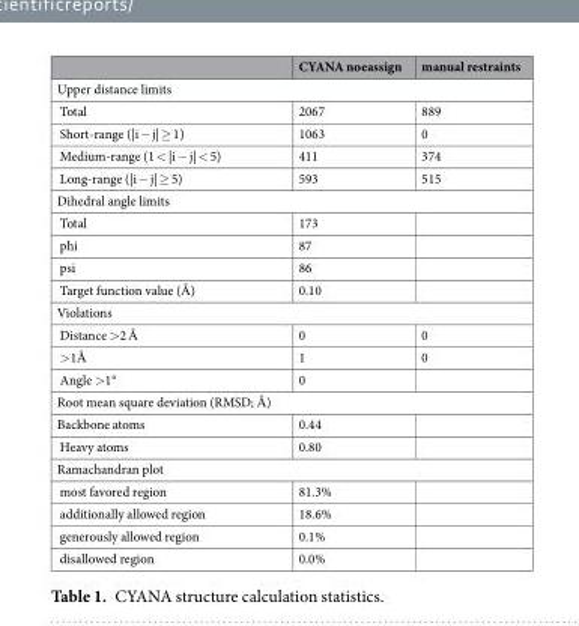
<table><thead><tr><td></td><td>CYANA noeassign</td><td>manual restraints</td></tr></thead><tbody><tr><td colspan="3">Upper distance limits</td></tr><tr><td>Total</td><td>2067</td><td>889</td></tr><tr><td>Short-range (|i − j| ≥ 1)</td><td>1063</td><td>0</td></tr><tr><td>Medium-range (1 &lt; |i − j| &lt; 5)</td><td>411</td><td>374</td></tr><tr><td>Long-range (|i − j| ≥ 5)</td><td>593</td><td>515</td></tr><tr><td colspan="3">Dihedral angle limits</td></tr><tr><td>Total</td><td>173</td><td></td></tr><tr><td>phi</td><td>87</td><td></td></tr><tr><td>psi</td><td>86</td><td></td></tr><tr><td>Target function value (Å)</td><td>0.10</td><td></td></tr><tr><td colspan="3">Violations</td></tr><tr><td>Distance &gt;2 Å</td><td>0</td><td>0</td></tr><tr><td>&gt;1Å</td><td>1</td><td>0</td></tr><tr><td>Angle &gt;1°</td><td>0</td><td></td></tr><tr><td colspan="3">Root mean square deviation (RMSD; Å)</td></tr><tr><td>Backbone atoms</td><td>0.44</td><td></td></tr><tr><td>Heavy atoms</td><td>0.80</td><td></td></tr><tr><td colspan="3">Ramachandran plot</td></tr><tr><td>most favored region</td><td>81.3%</td><td></td></tr><tr><td>additionally allowed region</td><td>18.6%</td><td></td></tr><tr><td>generously allowed region</td><td>0.1%</td><td></td></tr><tr><td>disallowed region</td><td>0.0%</td><td></td></tr></tbody></table>